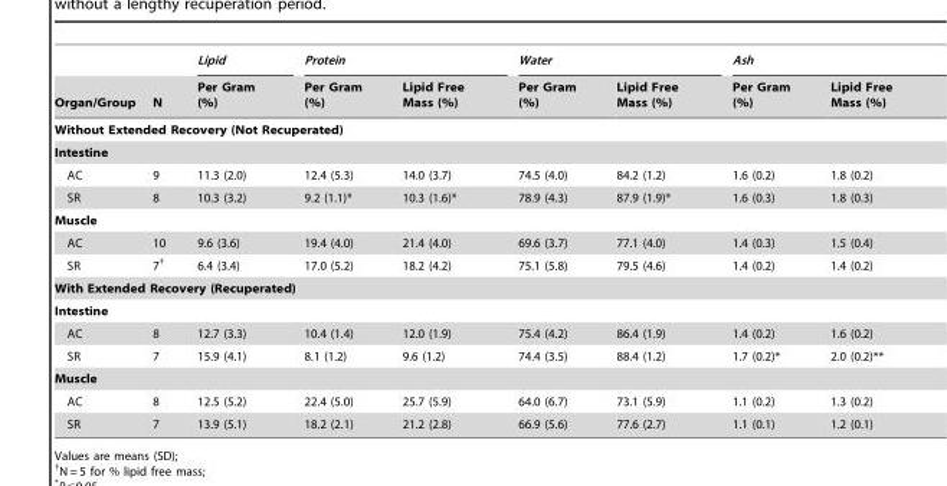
<table><thead><tr><td rowspan="2">Organ/Group</td><td rowspan="2">N</td><td rowspan="2">Lipid Per Gram (%)</td><td colspan="2">Protein</td><td colspan="2">Water</td><td colspan="2">Ash</td></tr><tr><td>Per Gram (%)</td><td>Lipid Free Mass (%)</td><td>Per Gram (%)</td><td>Lipid Free Mass (%)</td><td>Per Gram (%)</td><td>Lipid Free Mass (%)</td></tr></thead><tbody><tr><td colspan="9">Without Extended Recovery (Not Recuperated)</td></tr><tr><td colspan="9">Intestine</td></tr><tr><td>AC</td><td>9</td><td>11.3 (2.0)</td><td>12.4 (5.3)</td><td>14.0 (3.7)</td><td>74.5 (4.0)</td><td>84.2 (1.2)</td><td>1.6 (0.2)</td><td>1.8 (0.2)</td></tr><tr><td>SR</td><td>8</td><td>10.3 (3.2)</td><td>9.2 (1.1)*</td><td>10.3 (1.6)*</td><td>78.9 (4.3)</td><td>87.9 (1.9)*</td><td>1.6 (0.3)</td><td>1.8 (0.3)</td></tr><tr><td colspan="9">Muscle</td></tr><tr><td>AC</td><td>10</td><td>9.6 (3.6)</td><td>19.4 (4.0)</td><td>21.4 (4.0)</td><td>69.6 (3.7)</td><td>77.1 (4.0)</td><td>1.4 (0.3)</td><td>1.5 (0.4)</td></tr><tr><td>SR</td><td>7†</td><td>6.4 (3.4)</td><td>17.0 (5.2)</td><td>18.2 (4.2)</td><td>75.1 (5.8)</td><td>79.5 (4.6)</td><td>1.4 (0.2)</td><td>1.4 (0.2)</td></tr><tr><td colspan="9">With Extended Recovery (Recuperated)</td></tr><tr><td colspan="9">Intestine</td></tr><tr><td>AC</td><td>8</td><td>12.7 (3.3)</td><td>10.4 (1.4)</td><td>12.0 (1.9)</td><td>75.4 (4.2)</td><td>86.4 (1.9)</td><td>1.4 (0.2)</td><td>1.6 (0.2)</td></tr><tr><td>SR</td><td>7</td><td>15.9 (4.1)</td><td>8.1 (1.2)</td><td>9.6 (1.2)</td><td>74.4 (3.5)</td><td>88.4 (1.2)</td><td>1.7 (0.2)*</td><td>2.0 (0.2)**</td></tr><tr><td colspan="9">Muscle</td></tr><tr><td>AC</td><td>8</td><td>12.5 (5.2)</td><td>22.4 (5.0)</td><td>25.7 (5.9)</td><td>64.0 (6.7)</td><td>73.1 (5.9)</td><td>1.1 (0.2)</td><td>1.3 (0.2)</td></tr><tr><td>SR</td><td>7</td><td>13.9 (5.1)</td><td>18.2 (2.1)</td><td>21.2 (2.8)</td><td>66.9 (5.6)</td><td>77.6 (2.7)</td><td>1.1 (0.1)</td><td>1.2 (0.1)</td></tr></tbody></table>